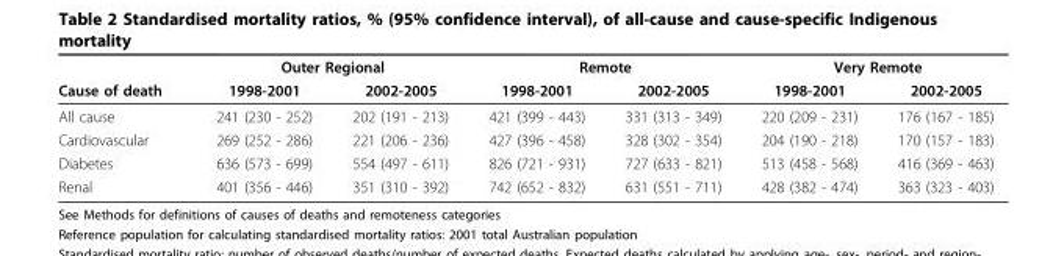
<table><thead><tr><td rowspan="2">Cause of death</td><td colspan="2">Outer Regional</td><td colspan="2">Remote</td><td colspan="2">Very Remote</td></tr><tr><td>1998-2001</td><td>2002-2005</td><td>1998-2001</td><td>2002-2005</td><td>1998-2001</td><td>2002-2005</td></tr></thead><tbody><tr><td>All cause</td><td>241 (230 - 252)</td><td>202 (191 - 213)</td><td>421 (399 - 443)</td><td>331 (313 - 349)</td><td>220 (209 - 231)</td><td>176 (167 - 185)</td></tr><tr><td>Cardiovascular</td><td>269 (252 - 286)</td><td>221 (206 - 236)</td><td>427 (396 - 458)</td><td>328 (302 - 354)</td><td>204 (190 - 218)</td><td>170 (157 - 183)</td></tr><tr><td>Diabetes</td><td>636 (573 - 699)</td><td>554 (497 - 611)</td><td>826 (721 - 931)</td><td>727 (633 - 821)</td><td>513 (458 - 568)</td><td>416 (369 - 463)</td></tr><tr><td>Renal</td><td>401 (356 - 446)</td><td>351 (310 - 392)</td><td>742 (652 - 832)</td><td>631 (551 - 711)</td><td>428 (382 - 474)</td><td>363 (323 - 403)</td></tr></tbody></table>